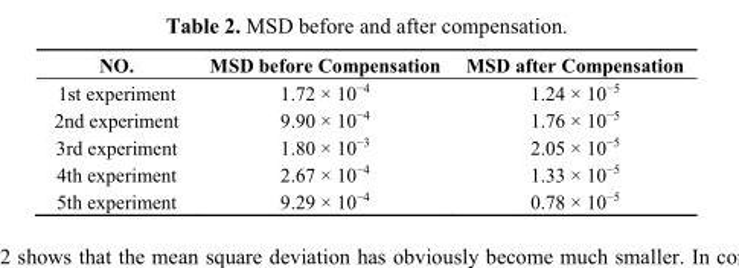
<table><thead><tr><td>NO.</td><td>MSD before Compensation</td><td>MSD after Compensation</td></tr></thead><tbody><tr><td>1st experiment</td><td>1.72 × 10<sup>−4</sup></td><td>1.24 × 10<sup>−5</sup></td></tr><tr><td>2nd experiment</td><td>9.90 × 10<sup>−4</sup></td><td>1.76 × 10<sup>−5</sup></td></tr><tr><td>3rd experiment</td><td>1.80 × 10<sup>−3</sup></td><td>2.05 × 10<sup>−5</sup></td></tr><tr><td>4th experiment</td><td>2.67 × 10<sup>−4</sup></td><td>1.33 × 10<sup>−5</sup></td></tr><tr><td>5th experiment</td><td>9.29 × 10<sup>−4</sup></td><td>0.78 × 10<sup>−5</sup></td></tr></tbody></table>